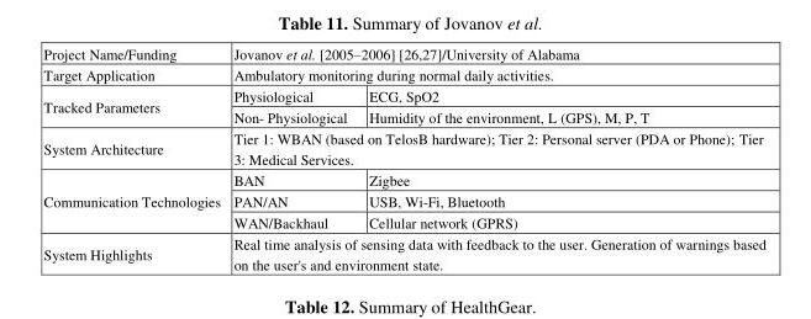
<table><tbody><tr><td>Project Name/Funding</td><td colspan="2">Jovanov et al. [2005–2006] [26,27]/University of Alabama</td></tr><tr><td>Target Application</td><td colspan="2">Ambulatory monitoring during normal daily activities.</td></tr><tr><td rowspan="2">Tracked Parameters</td><td>Physiological</td><td>ECG, SpO2</td></tr><tr><td>Non- Physiological</td><td>Humidity of the environment, L (GPS), M, P, T</td></tr><tr><td>System Architecture</td><td colspan="2">Tier 1: WBAN (based on TelosB hardware); Tier 2: Personal server (PDA or Phone); Tier 3: Medical Services.</td></tr><tr><td rowspan="3">Communication Technologies</td><td>BAN</td><td>Zigbee</td></tr><tr><td>PAN/AN</td><td>USB, Wi-Fi, Bluetooth</td></tr><tr><td>WAN/Backhaul</td><td>Cellular network (GPRS)</td></tr><tr><td>System Highlights</td><td colspan="2">Real time analysis of sensing data with feedback to the user. Generation of warnings based on the user&#x27;s and environment state.</td></tr></tbody></table>